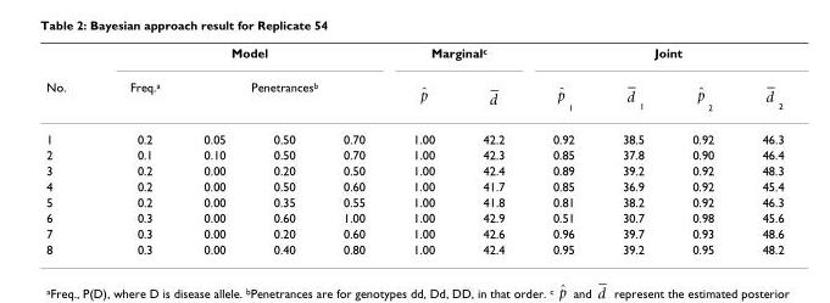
<table><thead><tr><td rowspan="3">No. 1</td><td colspan="4">Model</td><td colspan="2">Marginalc</td><td colspan="4">Joint</td></tr><tr><td rowspan="2">Freq.a 0.2</td><td colspan="3">Penetrancesb</td><td rowspan="2">1.00 ˆp</td><td rowspan="2">42.2 d</td><td rowspan="2">1 0.92 ˆp</td><td rowspan="2">1 38.5 d</td><td rowspan="2">2 0.92 ˆp</td><td rowspan="2">2 46.3 d</td></tr><tr><td>0.05</td><td>0.50</td><td>0.70</td></tr></thead><tbody><tr><td>2</td><td>0.1</td><td>0.10</td><td>0.50</td><td>0.70</td><td>1.00</td><td>42.3</td><td>0.85</td><td>37.8</td><td>0.90</td><td>46.4</td></tr><tr><td>3</td><td>0.2</td><td>0.00</td><td>0.20</td><td>0.50</td><td>1.00</td><td>42.4</td><td>0.89</td><td>39.2</td><td>0.92</td><td>48.3</td></tr><tr><td>4</td><td>0.2</td><td>0.00</td><td>0.50</td><td>0.60</td><td>1.00</td><td>41.7</td><td>0.85</td><td>36.9</td><td>0.92</td><td>45.4</td></tr><tr><td>5</td><td>0.2</td><td>0.00</td><td>0.35</td><td>0.55</td><td>1.00</td><td>41.8</td><td>0.81</td><td>38.2</td><td>0.92</td><td>46.3</td></tr><tr><td>6</td><td>0.3</td><td>0.00</td><td>0.60</td><td>1.00</td><td>1.00</td><td>42.9</td><td>0.51</td><td>30.7</td><td>0.98</td><td>45.6</td></tr><tr><td>7</td><td>0.3</td><td>0.00</td><td>0.20</td><td>0.60</td><td>1.00</td><td>42.6</td><td>0.96</td><td>39.7</td><td>0.93</td><td>48.6</td></tr><tr><td>8</td><td>0.3</td><td>0.00</td><td>0.40</td><td>0.80</td><td>1.00</td><td>42.4</td><td>0.95</td><td>39.2</td><td>0.95</td><td>48.2</td></tr></tbody></table>